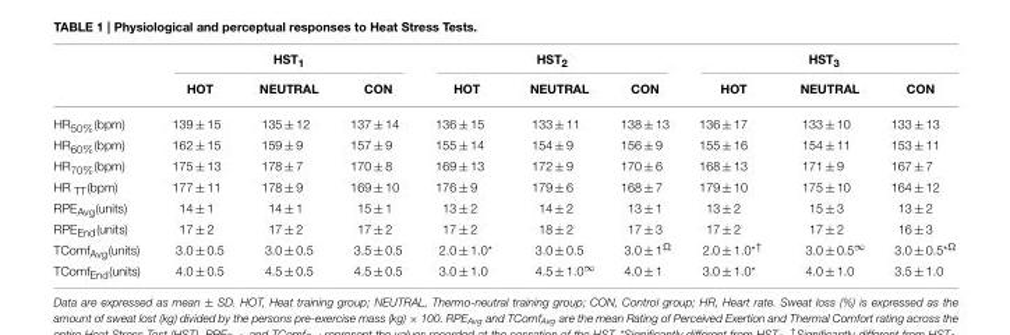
<table><thead><tr><td rowspan="2"></td><td colspan="3">HST<sub>1</sub></td><td colspan="3">HST<sub>2</sub></td><td colspan="3">HST<sub>3</sub></td></tr><tr><td>HOT</td><td>NEUTRAL</td><td>CON</td><td>HOT</td><td>NEUTRAL</td><td>CON</td><td>HOT</td><td>NEUTRAL</td><td>CON</td></tr></thead><tbody><tr><td>HR<sub>50%</sub>(bpm)</td><td>139 ± 15</td><td>135 ± 12</td><td>137 ± 14</td><td>136 ± 15</td><td>133 ± 11</td><td>138 ± 13</td><td>136 ± 17</td><td>133 ± 10</td><td>133 ± 13</td></tr><tr><td>HR<sub>60%</sub>(bpm)</td><td>162 ± 15</td><td>159 ± 9</td><td>157 ± 9</td><td>155 ± 14</td><td>154 ± 9</td><td>156 ± 9</td><td>155 ± 16</td><td>154 ± 11</td><td>153 ± 11</td></tr><tr><td>HR<sub>70%</sub>(bpm)</td><td>175 ± 13</td><td>178 ± 7</td><td>170 ± 8</td><td>169 ± 13</td><td>172 ± 9</td><td>170 ± 6</td><td>168 ± 13</td><td>171 ± 9</td><td>167 ± 7</td></tr><tr><td>HR <sub>TT</sub>(bpm)</td><td>177 ± 11</td><td>178 ± 9</td><td>169 ± 10</td><td>176 ± 9</td><td>179 ± 6</td><td>168 ± 7</td><td>179 ± 10</td><td>175 ± 10</td><td>164 ± 12</td></tr><tr><td>RPE<sub>Avg</sub>(units)</td><td>14 ± 1</td><td>14 ± 1</td><td>15 ± 1</td><td>13 ± 2</td><td>14 ± 2</td><td>13 ± 1</td><td>13 ± 2</td><td>15 ± 3</td><td>13 ± 2</td></tr><tr><td>RPE<sub>End</sub>(units)</td><td>17 ± 2</td><td>17 ± 2</td><td>17 ± 2</td><td>17 ± 2</td><td>18 ± 2</td><td>17 ± 3</td><td>17 ± 2</td><td>17 ± 2</td><td>16 ± 3</td></tr><tr><td>TComf<sub>Avg</sub>(units)</td><td>3.0 ± 0.5</td><td>3.0 ± 0.5</td><td>3.5 ± 0.5</td><td>2.0 ± 1.0*</td><td>3.0 ± 0.5</td><td>3.0 ± 1<sup>Ω</sup></td><td>2.0 ± 1.0<sup>*†</sup></td><td>3.0 ± 0.5<sup>∞</sup></td><td>3.0 ± 0.5<sup>*Ω</sup></td></tr><tr><td>TComf<sub>End</sub>(units)</td><td>4.0 ± 0.5</td><td>4.5 ± 0.5</td><td>4.5 ± 0.5</td><td>3.0 ± 1.0</td><td>4.5 ± 1.0<sup>∞</sup></td><td>4.0 ± 1</td><td>3.0 ± 1.0*</td><td>4.0 ± 1.0</td><td>3.5 ± 1.0</td></tr></tbody></table>